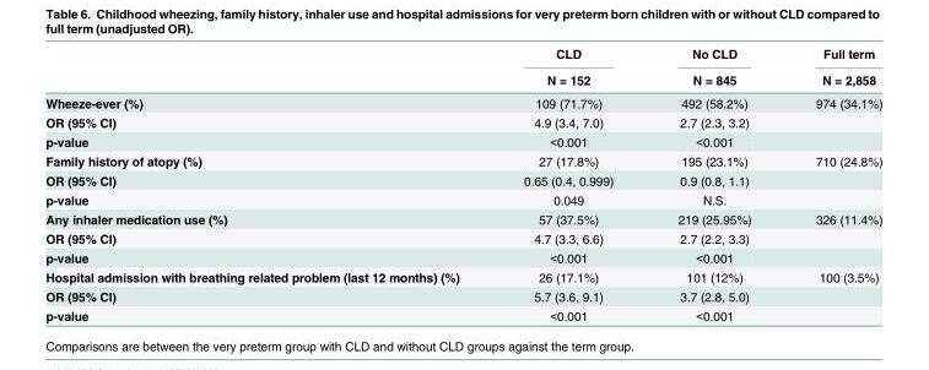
<table><thead><tr><td rowspan="2"></td><td rowspan="2">CLD N = 152</td><td rowspan="2">No CLD N = 845</td><td rowspan="2">Full term N = 2,858</td></tr><tr></tr></thead><tbody><tr><td>Wheeze-ever (%)</td><td>109 (71.7%)</td><td>492 (58.2%)</td><td>974 (34.1%)</td></tr><tr><td>OR (95% CI)</td><td>4.9 (3.4, 7.0)</td><td>2.7 (2.3, 3.2)</td><td></td></tr><tr><td>p-value</td><td>&lt;0.001</td><td>&lt;0.001</td><td></td></tr><tr><td>Family history of atopy (%)</td><td>27 (17.8%)</td><td>195 (23.1%)</td><td>710 (24.8%)</td></tr><tr><td>OR (95% CI)</td><td>0.65 (0.4, 0.999)</td><td>0.9 (0.8, 1.1)</td><td></td></tr><tr><td>p-value</td><td>0.049</td><td>N.S.</td><td></td></tr><tr><td>Any inhaler medication use (%)</td><td>57 (37.5%)</td><td>219 (25.95%)</td><td>326 (11.4%)</td></tr><tr><td>OR (95% CI)</td><td>4.7 (3.3, 6.6)</td><td>2.7 (2.2, 3.3)</td><td></td></tr><tr><td>p-value</td><td>&lt;0.001</td><td>&lt;0.001</td><td></td></tr><tr><td>Hospital admission with breathing related problem (last 12 months) (%)</td><td>26 (17.1%)</td><td>101 (12%)</td><td>100 (3.5%)</td></tr><tr><td>OR (95% CI)</td><td>5.7 (3.6, 9.1)</td><td>3.7 (2.8, 5.0)</td><td></td></tr><tr><td>p-value</td><td>&lt;0.001</td><td>&lt;0.001</td><td></td></tr></tbody></table>